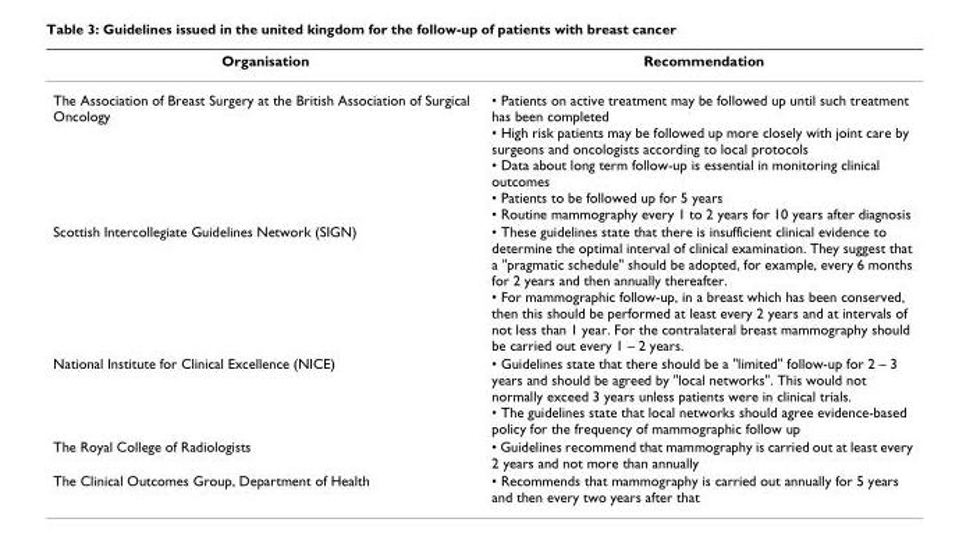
<table><thead><tr><td>Organisation</td><td>Recommendation</td></tr></thead><tbody><tr><td>The Association of Breast Surgery at the British Association of Surgical Oncology</td><td>• Patients on active treatment may be followed up until such treatment has been completed • High risk patients may be followed up more closely with joint care by surgeons and oncologists according to local protocols • Data about long term follow-up is essential in monitoring clinical outcomes • Patients to be followed up for 5 years • Routine mammography every 1 to 2 years for 10 years after diagnosis</td></tr><tr><td>Scottish Intercollegiate Guidelines Network (SIGN)</td><td>• These guidelines state that there is insufficient clinical evidence to determine the optimal interval of clinical examination. They suggest that a &quot;pragmatic schedule&quot; should be adopted, for example, every 6 months for 2 years and then annually thereafter. • For mammographic follow-up, in a breast which has been conserved, then this should be performed at least every 2 years and at intervals of not less than 1 year. For the contralateral breast mammography should be carried out every 1 – 2 years.</td></tr><tr><td>National Institute for Clinical Excellence (NICE)</td><td>• Guidelines state that there should be a &quot;limited&quot; follow-up for 2 – 3 years and should be agreed by &quot;local networks&quot;. This would not normally exceed 3 years unless patients were in clinical trials. • The guidelines state that local networks should agree evidence-based policy for the frequency of mammographic follow up</td></tr><tr><td>The Royal College of Radiologists</td><td>• Guidelines recommend that mammography is carried out at least every 2 years and not more than annually</td></tr><tr><td>The Clinical Outcomes Group, Department of Health</td><td>• Recommends that mammography is carried out annually for 5 years and then every two years after that</td></tr></tbody></table>